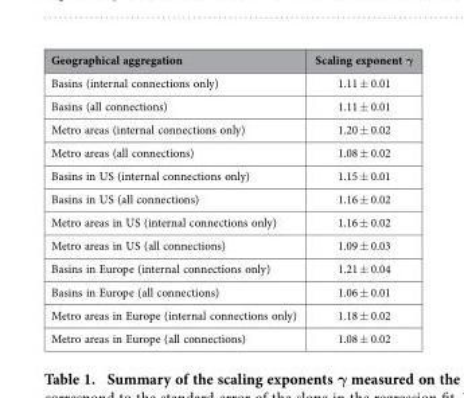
<table><thead><tr><td>Geographical aggregation</td><td>Scaling exponent γ</td></tr></thead><tbody><tr><td>Basins (internal connections only)</td><td>1.11 ± 0.01</td></tr><tr><td>Basins (all connections)</td><td>1.11 ± 0.01</td></tr><tr><td>Metro areas (internal connections only)</td><td>1.20 ± 0.02</td></tr><tr><td>Metro areas (all connections)</td><td>1.08 ± 0.02</td></tr><tr><td>Basins in US (internal connections only)</td><td>1.15 ± 0.01</td></tr><tr><td>Basins in US (all connections)</td><td>1.16 ± 0.02</td></tr><tr><td>Metro areas in US (internal connections only)</td><td>1.16 ± 0.02</td></tr><tr><td>Metro areas in US (all connections)</td><td>1.09 ± 0.03</td></tr><tr><td>Basins in Europe (internal connections only)</td><td>1.21 ± 0.04</td></tr><tr><td>Basins in Europe (all connections)</td><td>1.06 ± 0.01</td></tr><tr><td>Metro areas in Europe (internal connections only)</td><td>1.18 ± 0.02</td></tr><tr><td>Metro areas in Europe (all connections)</td><td>1.08 ± 0.02</td></tr></tbody></table>